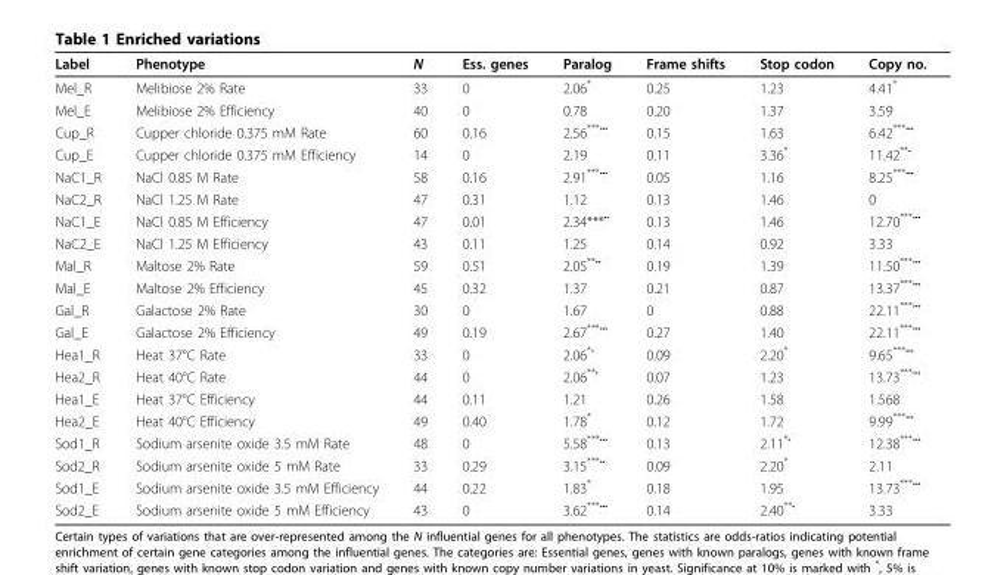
<table><thead><tr><td>Label</td><td>Phenotype</td><td>N</td><td>Ess. genes</td><td>Paralog</td><td>Frame shifts</td><td>Stop codon</td><td>Copy no.</td></tr></thead><tbody><tr><td>Mel_R</td><td>Melibiose 2% Rate</td><td>33</td><td>0</td><td>2.06*</td><td>0.25</td><td>1.23</td><td>4.41*</td></tr><tr><td>Mel_E</td><td>Melibiose 2% Efficiency</td><td>40</td><td>0</td><td>0.78</td><td>0.20</td><td>1.37</td><td>3.59</td></tr><tr><td>Cup_R</td><td>Cupper chloride 0.375 mM Rate</td><td>60</td><td>0.16</td><td>2.56<sup>***•••</sup></td><td>0.15</td><td>1.63</td><td>6.42<sup>***•••</sup></td></tr><tr><td>Cup_E</td><td>Cupper chloride 0.375 mM Efficiency</td><td>14</td><td>0</td><td>2.19</td><td>0.11</td><td>3.36*</td><td>11.42<sup>**•</sup></td></tr><tr><td>NaC1_R</td><td>NaCl 0.85 M Rate</td><td>58</td><td>0.16</td><td>2.91<sup>***•••</sup></td><td>0.05</td><td>1.16</td><td>8.25<sup>***•••</sup></td></tr><tr><td>NaC2_R</td><td>NaCl 1.25 M Rate</td><td>47</td><td>0.31</td><td>1.12</td><td>0.13</td><td>1.46</td><td>0</td></tr><tr><td>NaC1_E</td><td>NaCl 0.85 M Efficiency</td><td>47</td><td>0.01</td><td>2.34***<sup>••</sup></td><td>0.13</td><td>1.46</td><td>12.70<sup>***•••</sup></td></tr><tr><td>NaC2_E</td><td>NaCl 1.25 M Efficiency</td><td>43</td><td>0.11</td><td>1.25</td><td>0.14</td><td>0.92</td><td>3.33</td></tr><tr><td>Mal_R</td><td>Maltose 2% Rate</td><td>59</td><td>0.51</td><td>2.05<sup>**••</sup></td><td>0.19</td><td>1.39</td><td>11.50<sup>***•••</sup></td></tr><tr><td>Mal_E</td><td>Maltose 2% Efficiency</td><td>45</td><td>0.32</td><td>1.37</td><td>0.21</td><td>0.87</td><td>13.37<sup>***•••</sup></td></tr><tr><td>Gal_R</td><td>Galactose 2% Rate</td><td>30</td><td>0</td><td>1.67</td><td>0</td><td>0.88</td><td>22.11<sup>***•••</sup></td></tr><tr><td>Gal_E</td><td>Galactose 2% Efficiency</td><td>49</td><td>0.19</td><td>2.67<sup>***•••</sup></td><td>0.27</td><td>1.40</td><td>22.11<sup>***•••</sup></td></tr><tr><td>Hea1_R</td><td>Heat 37°C Rate</td><td>33</td><td>0</td><td>2.06<sup>*•</sup></td><td>0.09</td><td>2.20*</td><td>9.65<sup>***•••</sup></td></tr><tr><td>Hea2_R</td><td>Heat 40°C Rate</td><td>44</td><td>0</td><td>2.06<sup>**•</sup></td><td>0.07</td><td>1.23</td><td>13.73<sup>***•••</sup></td></tr><tr><td>Hea1_E</td><td>Heat 37°C Efficiency</td><td>44</td><td>0.11</td><td>1.21</td><td>0.26</td><td>1.58</td><td>1.568</td></tr><tr><td>Hea2_E</td><td>Heat 40°C Efficiency</td><td>49</td><td>0.40</td><td>1.78*</td><td>0.12</td><td>1.72</td><td>9.99<sup>***•••</sup></td></tr><tr><td>Sod1_R</td><td>Sodium arsenite oxide 3.5 mM Rate</td><td>48</td><td>0</td><td>5.58<sup>***•••</sup></td><td>0.13</td><td>2.11<sup>*•</sup></td><td>12.38<sup>***•••</sup></td></tr><tr><td>Sod2_R</td><td>Sodium arsenite oxide 5 mM Rate</td><td>33</td><td>0.29</td><td>3.15<sup>***••</sup></td><td>0.09</td><td>2.20*</td><td>2.11</td></tr><tr><td>Sod1_E</td><td>Sodium arsenite oxide 3.5 mM Efficiency</td><td>44</td><td>0.22</td><td>1.83*</td><td>0.18</td><td>1.95</td><td>13.73<sup>***•••</sup></td></tr><tr><td>Sod2_E</td><td>Sodium arsenite oxide 5 mM Efficiency</td><td>43</td><td>0</td><td>3.62<sup>***•••</sup></td><td>0.14</td><td>2.40<sup>**•</sup></td><td>3.33</td></tr></tbody></table>